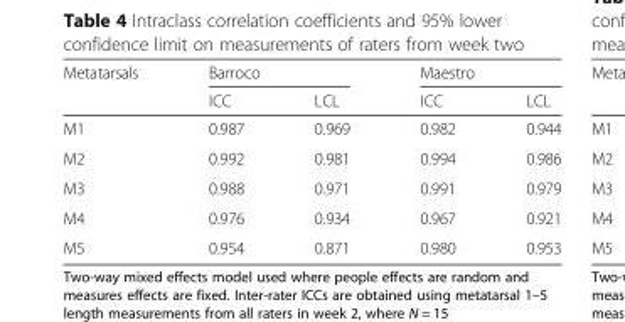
<table><thead><tr><td rowspan="2">Metatarsals</td><td colspan="2">Barroco</td><td colspan="2">Maestro</td></tr><tr><td>ICC</td><td>LCL</td><td>ICC</td><td>LCL</td></tr></thead><tbody><tr><td>M1</td><td>0.987</td><td>0.969</td><td>0.982</td><td>0.944</td></tr><tr><td>M2</td><td>0.992</td><td>0.981</td><td>0.994</td><td>0.986</td></tr><tr><td>M3</td><td>0.988</td><td>0.971</td><td>0.991</td><td>0.979</td></tr><tr><td>M4</td><td>0.976</td><td>0.934</td><td>0.967</td><td>0.921</td></tr><tr><td>M5</td><td>0.954</td><td>0.871</td><td>0.980</td><td>0.953</td></tr></tbody></table>